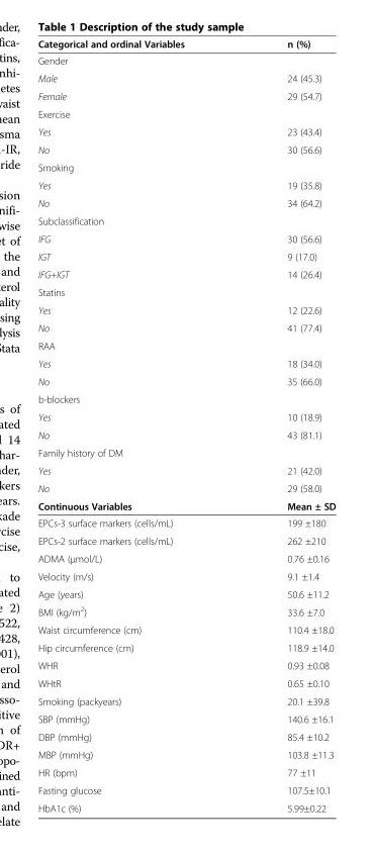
<table><thead><tr><td>Categorical and ordinal Variables</td><td>n (%)</td></tr></thead><tbody><tr><td colspan="2">Gender</td></tr><tr><td>Male</td><td>24 (45.3)</td></tr><tr><td>Female</td><td>29 (54.7)</td></tr><tr><td colspan="2">Exercise</td></tr><tr><td>Yes</td><td>23 (43.4)</td></tr><tr><td>No</td><td>30 (56.6)</td></tr><tr><td colspan="2">Smoking</td></tr><tr><td>Yes</td><td>19 (35.8)</td></tr><tr><td>No</td><td>34 (64.2)</td></tr><tr><td colspan="2">Subclassification</td></tr><tr><td>IFG</td><td>30 (56.6)</td></tr><tr><td>IGT</td><td>9 (17.0)</td></tr><tr><td>IFG+IGT</td><td>14 (26.4)</td></tr><tr><td colspan="2">Statins</td></tr><tr><td>Yes</td><td>12 (22.6)</td></tr><tr><td>No</td><td>41 (77.4)</td></tr><tr><td colspan="2">RAA</td></tr><tr><td>Yes</td><td>18 (34.0)</td></tr><tr><td>No</td><td>35 (66.0)</td></tr><tr><td colspan="2">b-blockers</td></tr><tr><td>Yes</td><td>10 (18.9)</td></tr><tr><td>No</td><td>43 (81.1)</td></tr><tr><td colspan="2">Family history of DM</td></tr><tr><td>Yes</td><td>21 (42.0)</td></tr><tr><td>No</td><td>29 (58.0)</td></tr><tr><td>Continuous Variables</td><td>Mean ± SD</td></tr><tr><td>EPCs-3 surface markers (cells/mL)</td><td>199 ±180</td></tr><tr><td>EPCs-2 surface markers (cells/mL)</td><td>262 ±210</td></tr><tr><td>ADMA (μmol/L)</td><td>0.76 ±0.16</td></tr><tr><td>Velocity (m/s)</td><td>9.1 ±1.4</td></tr><tr><td>Age (years)</td><td>50.6 ±11.2</td></tr><tr><td>BMI (kg/m<sup>2</sup>)</td><td>33.6 ±7.0</td></tr><tr><td>Waist circumference (cm)</td><td>110.4 ±18.0</td></tr><tr><td>Hip circumference (cm)</td><td>118.9 ±14.0</td></tr><tr><td>WHR</td><td>0.93 ±0.08</td></tr><tr><td>WHtR</td><td>0.65 ±0.10</td></tr><tr><td>Smoking (packyears)</td><td>20.1 ±39.8</td></tr><tr><td>SBP (mmHg)</td><td>140.6 ±16.1</td></tr><tr><td>DBP (mmHg)</td><td>85.4 ±10.2</td></tr><tr><td>MBP (mmHg)</td><td>103.8 ±11.3</td></tr><tr><td>HR (bpm)</td><td>77 ±11</td></tr><tr><td>Fasting glucose</td><td>107.5±10.1</td></tr><tr><td>HbA1c (%)</td><td>5.99±0.22</td></tr></tbody></table>